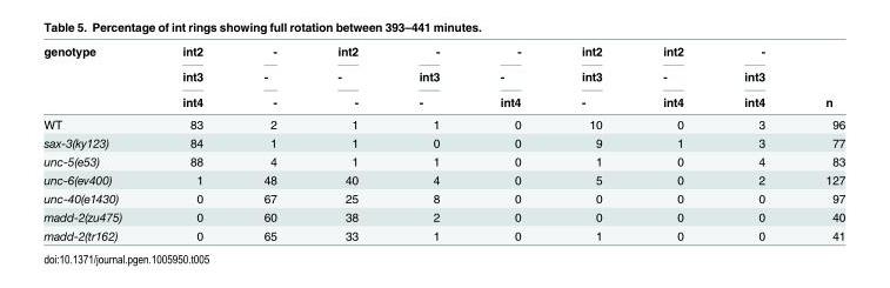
<table><thead><tr><td rowspan="3">genotype</td><td rowspan="3">int2 int3 int4</td><td rowspan="3">- - -</td><td rowspan="3">int2 - -</td><td rowspan="3">- int3 -</td><td rowspan="3">- - int4</td><td rowspan="3">int2 int3 -</td><td rowspan="3">int2 - int4</td><td rowspan="3">- int3 int4</td><td rowspan="3">n</td></tr><tr></tr><tr></tr></thead><tbody><tr><td>WT</td><td>83</td><td>2</td><td>1</td><td>1</td><td>0</td><td>10</td><td>0</td><td>3</td><td>96</td></tr><tr><td>sax-3(ky123)</td><td>84</td><td>1</td><td>1</td><td>0</td><td>0</td><td>9</td><td>1</td><td>3</td><td>77</td></tr><tr><td>unc-5(e53)</td><td>88</td><td>4</td><td>1</td><td>1</td><td>0</td><td>1</td><td>0</td><td>4</td><td>83</td></tr><tr><td>unc-6(ev400)</td><td>1</td><td>48</td><td>40</td><td>4</td><td>0</td><td>5</td><td>0</td><td>2</td><td>127</td></tr><tr><td>unc-40(e1430)</td><td>0</td><td>67</td><td>25</td><td>8</td><td>0</td><td>0</td><td>0</td><td>0</td><td>97</td></tr><tr><td>madd-2(zu475)</td><td>0</td><td>60</td><td>38</td><td>2</td><td>0</td><td>0</td><td>0</td><td>0</td><td>40</td></tr><tr><td>madd-2(tr162)</td><td>0</td><td>65</td><td>33</td><td>1</td><td>0</td><td>1</td><td>0</td><td>0</td><td>41</td></tr></tbody></table>